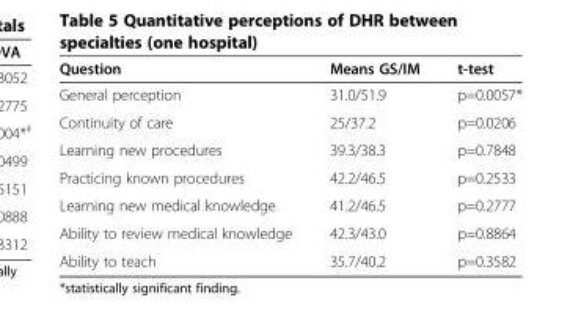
<table><thead><tr><td>Question</td><td>Means GS/IM</td><td>t-test</td></tr></thead><tbody><tr><td>General perception</td><td>31.0/51.9</td><td>p=0.0057*</td></tr><tr><td>Continuity of care</td><td>25/37.2</td><td>p=0.0206</td></tr><tr><td>Learning new procedures</td><td>39.3/38.3</td><td>p=0.7848</td></tr><tr><td>Practicing known procedures</td><td>42.2/46.5</td><td>p=0.2533</td></tr><tr><td>Learning new medical knowledge</td><td>41.2/46.5</td><td>p=0.2777</td></tr><tr><td>Ability to review medical knowledge</td><td>42.3/43.0</td><td>p=0.8864</td></tr><tr><td>Ability to teach</td><td>35.7/40.2</td><td>p=0.3582</td></tr></tbody></table>